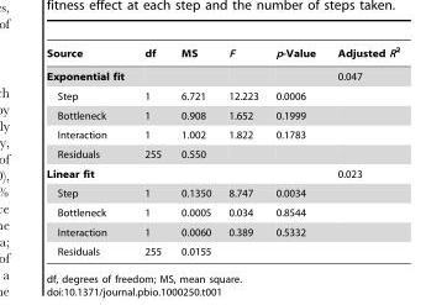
<table><thead><tr><td>Source</td><td>df</td><td>MS</td><td>F</td><td>p-Value</td><td>Adjusted R<sup>2</sup></td></tr></thead><tbody><tr><td>Exponential fit</td><td></td><td></td><td></td><td></td><td>0.047</td></tr><tr><td>Step</td><td>1</td><td>6.721</td><td>12.223</td><td>0.0006</td><td></td></tr><tr><td>Bottleneck</td><td>1</td><td>0.908</td><td>1.652</td><td>0.1999</td><td></td></tr><tr><td>Interaction</td><td>1</td><td>1.002</td><td>1.822</td><td>0.1783</td><td></td></tr><tr><td>Residuals</td><td>255</td><td>0.550</td><td></td><td></td><td></td></tr><tr><td>Linear fit</td><td></td><td></td><td></td><td></td><td>0.023</td></tr><tr><td>Step</td><td>1</td><td>0.1350</td><td>8.747</td><td>0.0034</td><td></td></tr><tr><td>Bottleneck</td><td>1</td><td>0.0005</td><td>0.034</td><td>0.8544</td><td></td></tr><tr><td>Interaction</td><td>1</td><td>0.0060</td><td>0.389</td><td>0.5332</td><td></td></tr><tr><td>Residuals</td><td>255</td><td>0.0155</td><td></td><td></td><td></td></tr></tbody></table>